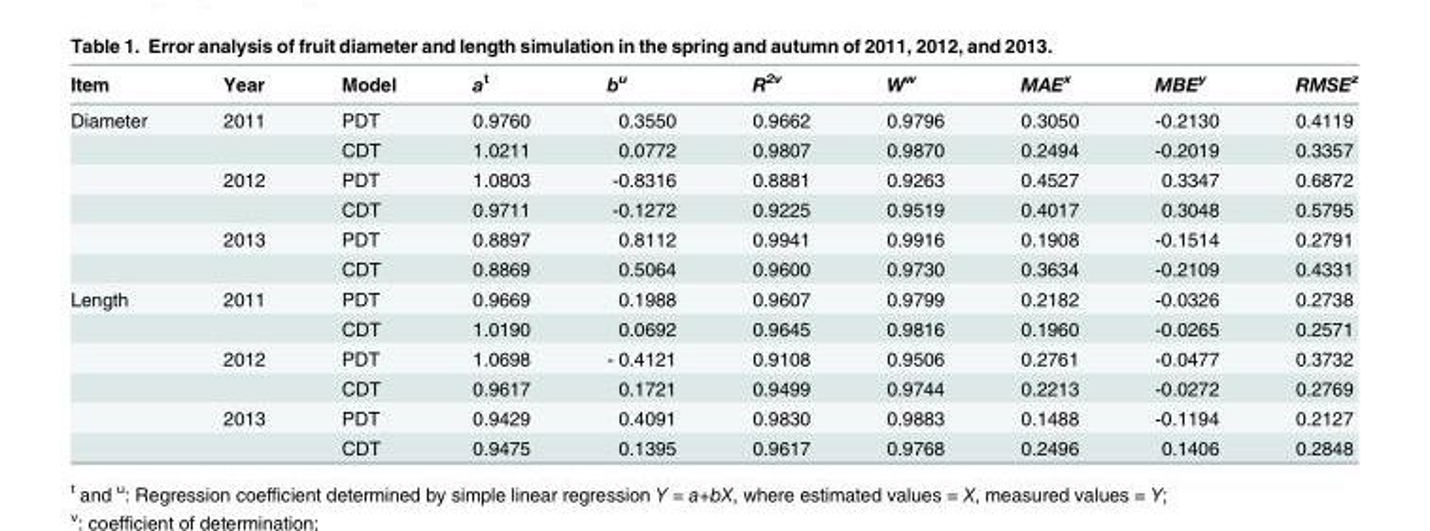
<table><thead><tr><td>Item</td><td>Year</td><td>Model</td><td>a<sup>t</sup></td><td>b<sup>u</sup></td><td>R<sup>2v</sup></td><td>W<sup>w</sup></td><td>MAE<sup>x</sup></td><td>MBE<sup>y</sup></td><td>RMSE<sup>z</sup></td></tr></thead><tbody><tr><td rowspan="6">Diameter</td><td>2011</td><td>PDT</td><td>0.9760</td><td>0.3550</td><td>0.9662</td><td>0.9796</td><td>0.3050</td><td>-0.2130</td><td>0.4119</td></tr><tr><td></td><td>CDT</td><td>1.0211</td><td>0.0772</td><td>0.9807</td><td>0.9870</td><td>0.2494</td><td>-0.2019</td><td>0.3357</td></tr><tr><td>2012</td><td>PDT</td><td>1.0803</td><td>-0.8316</td><td>0.8881</td><td>0.9263</td><td>0.4527</td><td>0.3347</td><td>0.6872</td></tr><tr><td></td><td>CDT</td><td>0.9711</td><td>-0.1272</td><td>0.9225</td><td>0.9519</td><td>0.4017</td><td>0.3048</td><td>0.5795</td></tr><tr><td>2013</td><td>PDT</td><td>0.8897</td><td>0.8112</td><td>0.9941</td><td>0.9916</td><td>0.1908</td><td>-0.1514</td><td>0.2791</td></tr><tr><td></td><td>CDT</td><td>0.8869</td><td>0.5064</td><td>0.9600</td><td>0.9730</td><td>0.3634</td><td>-0.2109</td><td>0.4331</td></tr><tr><td rowspan="6">Length</td><td>2011</td><td>PDT</td><td>0.9669</td><td>0.1988</td><td>0.9607</td><td>0.9799</td><td>0.2182</td><td>-0.0326</td><td>0.2738</td></tr><tr><td></td><td>CDT</td><td>1.0190</td><td>0.0692</td><td>0.9645</td><td>0.9816</td><td>0.1960</td><td>-0.0265</td><td>0.2571</td></tr><tr><td>2012</td><td>PDT</td><td>1.0698</td><td>- 0.4121</td><td>0.9108</td><td>0.9506</td><td>0.2761</td><td>-0.0477</td><td>0.3732</td></tr><tr><td></td><td>CDT</td><td>0.9617</td><td>0.1721</td><td>0.9499</td><td>0.9744</td><td>0.2213</td><td>-0.0272</td><td>0.2769</td></tr><tr><td>2013</td><td>PDT</td><td>0.9429</td><td>0.4091</td><td>0.9830</td><td>0.9883</td><td>0.1488</td><td>-0.1194</td><td>0.2127</td></tr><tr><td></td><td>CDT</td><td>0.9475</td><td>0.1395</td><td>0.9617</td><td>0.9768</td><td>0.2496</td><td>0.1406</td><td>0.2848</td></tr></tbody></table>